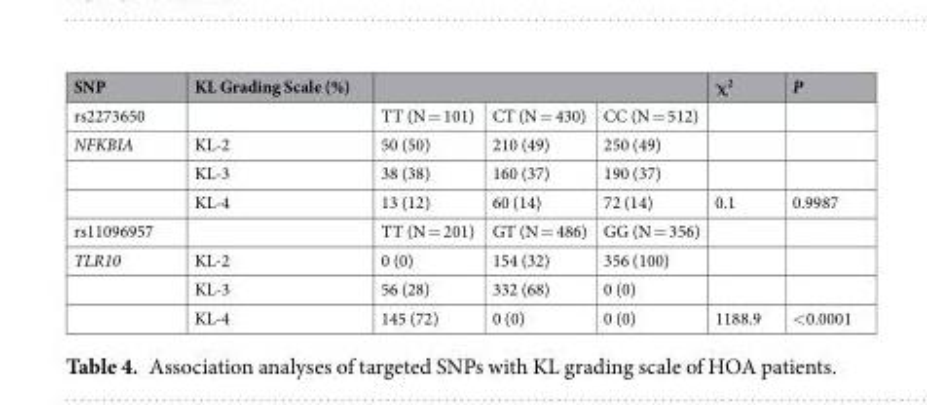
<table><thead><tr><td>SNP</td><td>KL Grading Scale (%)</td><td></td><td></td><td></td><td>χ<sup>2</sup></td><td>P</td></tr></thead><tbody><tr><td>rs2273650</td><td></td><td>TT (N = 101)</td><td>CT (N = 430)</td><td>CC (N = 512)</td><td></td><td></td></tr><tr><td rowspan="3">NFKBIA</td><td>KL-2</td><td>50 (50)</td><td>210 (49)</td><td>250 (49)</td><td></td><td></td></tr><tr><td>KL-3</td><td>38 (38)</td><td>160 (37)</td><td>190 (37)</td><td></td><td></td></tr><tr><td>KL-4</td><td>13 (12)</td><td>60 (14)</td><td>72 (14)</td><td>0.1</td><td>0.9987</td></tr><tr><td>rs11096957</td><td></td><td>TT (N = 201)</td><td>GT (N = 486)</td><td>GG (N = 356)</td><td></td><td></td></tr><tr><td rowspan="3">TLR10</td><td>KL-2</td><td>0 (0)</td><td>154 (32)</td><td>356 (100)</td><td></td><td></td></tr><tr><td>KL-3</td><td>56 (28)</td><td>332 (68)</td><td>0 (0)</td><td></td><td></td></tr><tr><td>KL-4</td><td>145 (72)</td><td>0 (0)</td><td>0 (0)</td><td>1188.9</td><td>&lt;0.0001</td></tr></tbody></table>